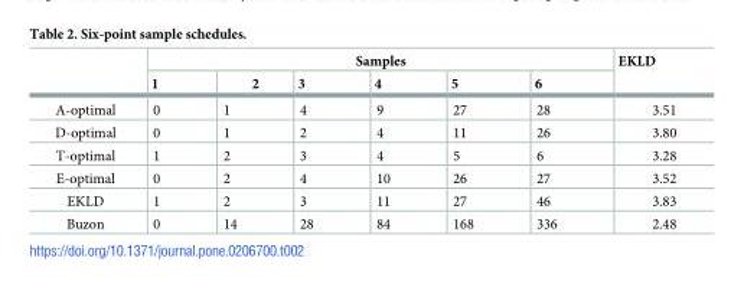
<table><thead><tr><td rowspan="2"></td><td colspan="6">Samples</td><td rowspan="2">EKLD</td></tr><tr><td>1</td><td>2</td><td>3</td><td>4</td><td>5</td><td>6</td></tr></thead><tbody><tr><td>A-optimal</td><td>0</td><td>1</td><td>4</td><td>9</td><td>27</td><td>28</td><td>3.51</td></tr><tr><td>D-optimal</td><td>0</td><td>1</td><td>2</td><td>4</td><td>11</td><td>26</td><td>3.80</td></tr><tr><td>T-optimal</td><td>1</td><td>2</td><td>3</td><td>4</td><td>5</td><td>6</td><td>3.28</td></tr><tr><td>E-optimal</td><td>0</td><td>2</td><td>4</td><td>10</td><td>26</td><td>27</td><td>3.52</td></tr><tr><td>EKLD</td><td>1</td><td>2</td><td>3</td><td>11</td><td>27</td><td>46</td><td>3.83</td></tr><tr><td>Buzon</td><td>0</td><td>14</td><td>28</td><td>84</td><td>168</td><td>336</td><td>2.48</td></tr></tbody></table>